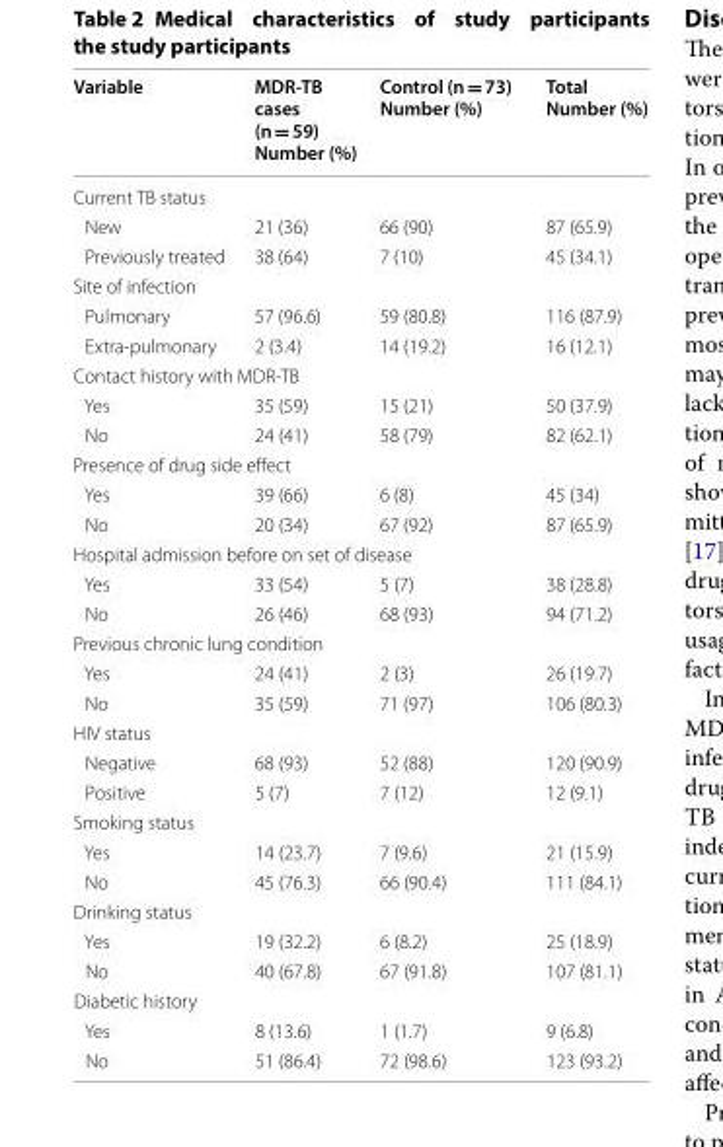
<table><thead><tr><td>Variable</td><td>MDR‑TB cases (n = 59) Number (%)</td><td>Control (n = 73) Number (%)</td><td>Total Number (%)</td></tr></thead><tbody><tr><td colspan="4">Current TB status</td></tr><tr><td>New</td><td>21 (36)</td><td>66 (90)</td><td>87 (65.9)</td></tr><tr><td>Previously treated</td><td>38 (64)</td><td>7 (10)</td><td>45 (34.1)</td></tr><tr><td colspan="4">Site of infection</td></tr><tr><td>Pulmonary</td><td>57 (96.6)</td><td>59 (80.8)</td><td>116 (87.9)</td></tr><tr><td>Extra-pulmonary</td><td>2 (3.4)</td><td>14 (19.2)</td><td>16 (12.1)</td></tr><tr><td colspan="4">Contact history with MDR-TB</td></tr><tr><td>Yes</td><td>35 (59)</td><td>15 (21)</td><td>50 (37.9)</td></tr><tr><td>No</td><td>24 (41)</td><td>58 (79)</td><td>82 (62.1)</td></tr><tr><td colspan="4">Presence of drug side effect</td></tr><tr><td>Yes</td><td>39 (66)</td><td>6 (8)</td><td>45 (34)</td></tr><tr><td>No</td><td>20 (34)</td><td>67 (92)</td><td>87 (65.9)</td></tr><tr><td colspan="4">Hospital admission before on set of disease</td></tr><tr><td>Yes</td><td>33 (54)</td><td>5 (7)</td><td>38 (28.8)</td></tr><tr><td>No</td><td>26 (46)</td><td>68 (93)</td><td>94 (71.2)</td></tr><tr><td colspan="4">Previous chronic lung condition</td></tr><tr><td>Yes</td><td>24 (41)</td><td>2 (3)</td><td>26 (19.7)</td></tr><tr><td>No</td><td>35 (59)</td><td>71 (97)</td><td>106 (80.3)</td></tr><tr><td colspan="4">HIV status</td></tr><tr><td>Negative</td><td>68 (93)</td><td>52 (88)</td><td>120 (90.9)</td></tr><tr><td>Positive</td><td>5 (7)</td><td>7 (12)</td><td>12 (9.1)</td></tr><tr><td colspan="4">Smoking status</td></tr><tr><td>Yes</td><td>14 (23.7)</td><td>7 (9.6)</td><td>21 (15.9)</td></tr><tr><td>No</td><td>45 (76.3)</td><td>66 (90.4)</td><td>111 (84.1)</td></tr><tr><td colspan="4">Drinking status</td></tr><tr><td>Yes</td><td>19 (32.2)</td><td>6 (8.2)</td><td>25 (18.9)</td></tr><tr><td>No</td><td>40 (67.8)</td><td>67 (91.8)</td><td>107 (81.1)</td></tr><tr><td colspan="4">Diabetic history</td></tr><tr><td>Yes</td><td>8 (13.6)</td><td>1 (1.7)</td><td>9 (6.8)</td></tr><tr><td>No</td><td>51 (86.4)</td><td>72 (98.6)</td><td>123 (93.2)</td></tr></tbody></table>